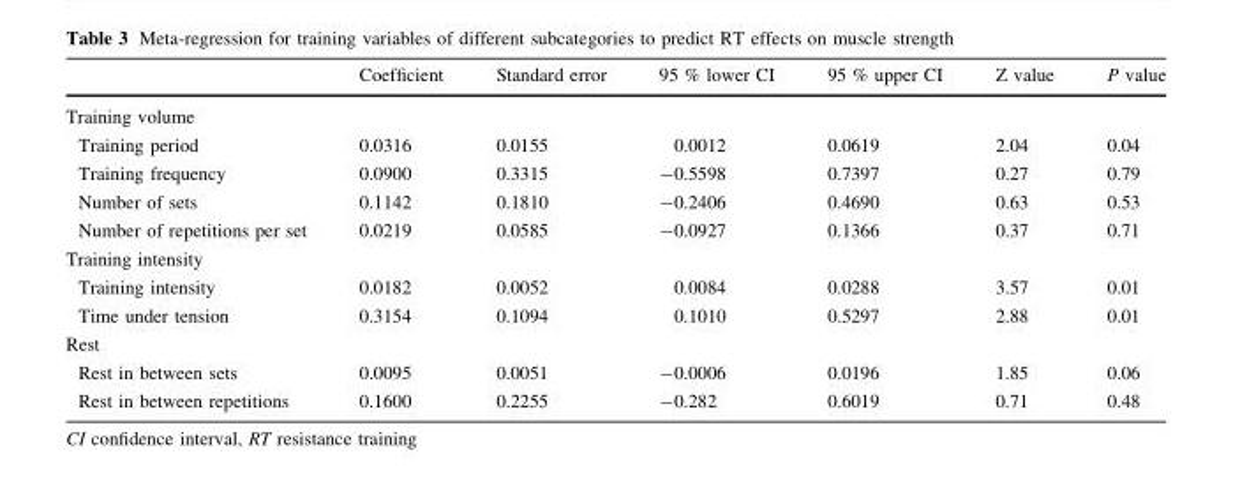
<table><thead><tr><td></td><td>Coefficient</td><td>Standard error</td><td>95 % lower CI</td><td>95 % upper CI</td><td>Z value</td><td>P value</td></tr></thead><tbody><tr><td colspan="7">Training volume</td></tr><tr><td>Training period</td><td>0.0316</td><td>0.0155</td><td>0.0012</td><td>0.0619</td><td>2.04</td><td>0.04</td></tr><tr><td>Training frequency</td><td>0.0900</td><td>0.3315</td><td>-0.5598</td><td>0.7397</td><td>0.27</td><td>0.79</td></tr><tr><td>Number of sets</td><td>0.1142</td><td>0.1810</td><td>-0.2406</td><td>0.4690</td><td>0.63</td><td>0.53</td></tr><tr><td>Number of repetitions per set</td><td>0.0219</td><td>0.0585</td><td>-0.0927</td><td>0.1366</td><td>0.37</td><td>0.71</td></tr><tr><td colspan="7">Training intensity</td></tr><tr><td>Training intensity</td><td>0.0182</td><td>0.0052</td><td>0.0084</td><td>0.0288</td><td>3.57</td><td>0.01</td></tr><tr><td>Time under tension</td><td>0.3154</td><td>0.1094</td><td>0.1010</td><td>0.5297</td><td>2.88</td><td>0.01</td></tr><tr><td colspan="7">Rest</td></tr><tr><td>Rest in between sets</td><td>0.0095</td><td>0.0051</td><td>-0.0006</td><td>0.0196</td><td>1.85</td><td>0.06</td></tr><tr><td>Rest in between repetitions</td><td>0.1600</td><td>0.2255</td><td>-0.282</td><td>0.6019</td><td>0.71</td><td>0.48</td></tr></tbody></table>